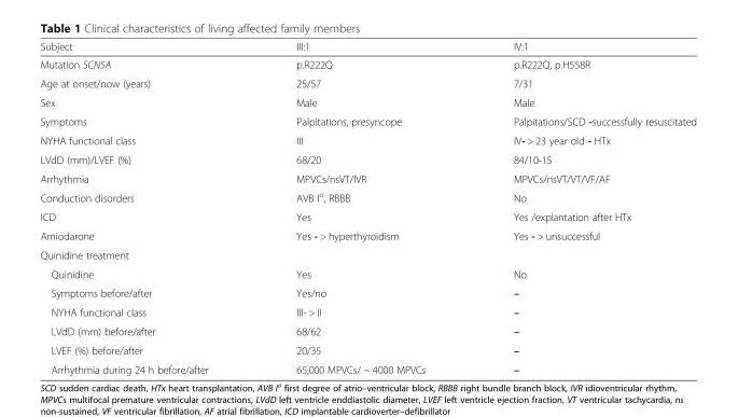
<table><thead><tr><td>Subject</td><td>III:1</td><td>IV:1</td></tr></thead><tbody><tr><td>Mutation SCN5A</td><td>p.R222Q</td><td>p.R222Q, p.H558R</td></tr><tr><td>Age at onset/now (years)</td><td>25/57</td><td>7/31</td></tr><tr><td>Sex</td><td>Male</td><td>Male</td></tr><tr><td>Symptoms</td><td>Palpitations, presyncope</td><td>Palpitations/SCD -successfully resuscitated</td></tr><tr><td>NYHA functional class</td><td>III</td><td>IV- &gt; 23 year old - HTx</td></tr><tr><td>LVdD (mm)/LVEF (%)</td><td>68/20</td><td>84/10-15</td></tr><tr><td>Arrhythmia</td><td>MPVCs/nsVT/IVR</td><td>MPVCs/nsVT/VT/VF/AF</td></tr><tr><td>Conduction disorders</td><td>AVB I<sup>o</sup>, RBBB</td><td>No</td></tr><tr><td>ICD</td><td>Yes</td><td>Yes /explantation after HTx</td></tr><tr><td>Amiodarone</td><td>Yes - &gt; hyperthyroidism</td><td>Yes - &gt; unsuccessful</td></tr><tr><td colspan="3">Quinidine treatment</td></tr><tr><td>Quinidine</td><td>Yes</td><td>No</td></tr><tr><td>Symptoms before/after</td><td>Yes/no</td><td>–</td></tr><tr><td>NYHA functional class</td><td>III- &gt; II</td><td>–</td></tr><tr><td>LVdD (mm) before/after</td><td>68/62</td><td>–</td></tr><tr><td>LVEF (%) before/after</td><td>20/35</td><td>–</td></tr><tr><td>Arrhythmia during 24 h before/after</td><td>65,000 MPVCs/ ~ 4000 MPVCs</td><td>–</td></tr></tbody></table>